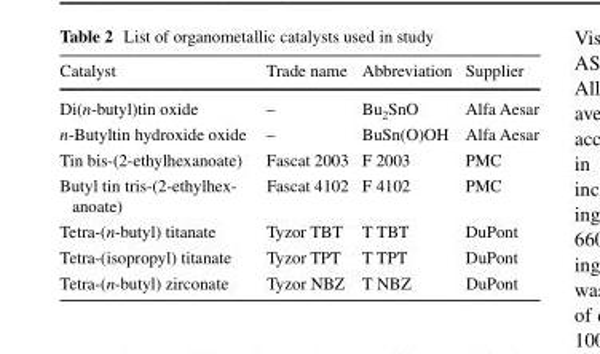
<table><thead><tr><td>Catalyst</td><td>Trade name</td><td>Abbreviation</td><td>Supplier</td></tr></thead><tbody><tr><td>Di(n-butyl)tin oxide</td><td>–</td><td>Bu<sub>2</sub>SnO</td><td>Alfa Aesar</td></tr><tr><td>n-Butyltin hydroxide oxide</td><td>–</td><td>BuSn(O)OH</td><td>Alfa Aesar</td></tr><tr><td>Tin bis-(2-ethylhexanoate)</td><td>Fascat 2003</td><td>F 2003</td><td>PMC</td></tr><tr><td>Butyl tin tris-(2-ethylhex- anoate)</td><td>Fascat 4102</td><td>F 4102</td><td>PMC</td></tr><tr><td>Tetra-(n-butyl) titanate</td><td>Tyzor TBT</td><td>T TBT</td><td>DuPont</td></tr><tr><td>Tetra-(isopropyl) titanate</td><td>Tyzor TPT</td><td>T TPT</td><td>DuPont</td></tr><tr><td>Tetra-(n-butyl) zirconate</td><td>Tyzor NBZ</td><td>T NBZ</td><td>DuPont</td></tr></tbody></table>